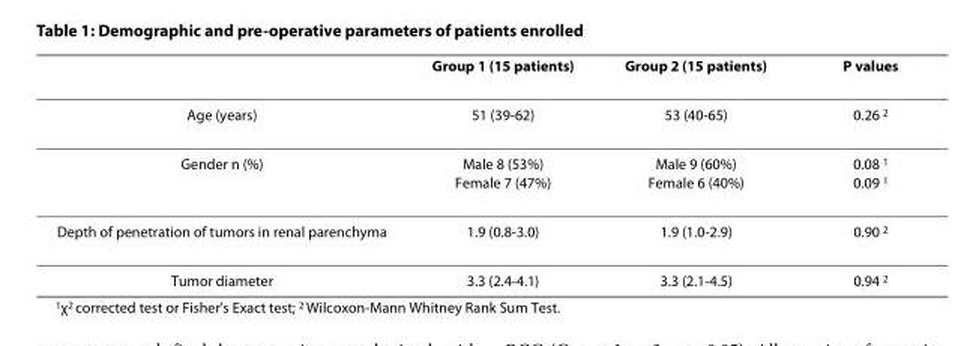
<table><thead><tr><td></td><td>Group 1 (15 patients)</td><td>Group 2 (15 patients)</td><td>P values</td></tr></thead><tbody><tr><td>Age (years)</td><td>51 (39-62)</td><td>53 (40-65)</td><td>0.26 <sup>2</sup></td></tr><tr><td>Gender n (%)</td><td>Male 8 (53%) Female 7 (47%)</td><td>Male 9 (60%) Female 6 (40%)</td><td>0.08 <sup>1</sup> 0.09 <sup>1</sup></td></tr><tr><td>Depth of penetration of tumors in renal parenchyma</td><td>1.9 (0.8-3.0)</td><td>1.9 (1.0-2.9)</td><td>0.90 <sup>2</sup></td></tr><tr><td>Tumor diameter</td><td>3.3 (2.4-4.1)</td><td>3.3 (2.1-4.5)</td><td>0.94 <sup>2</sup></td></tr></tbody></table>